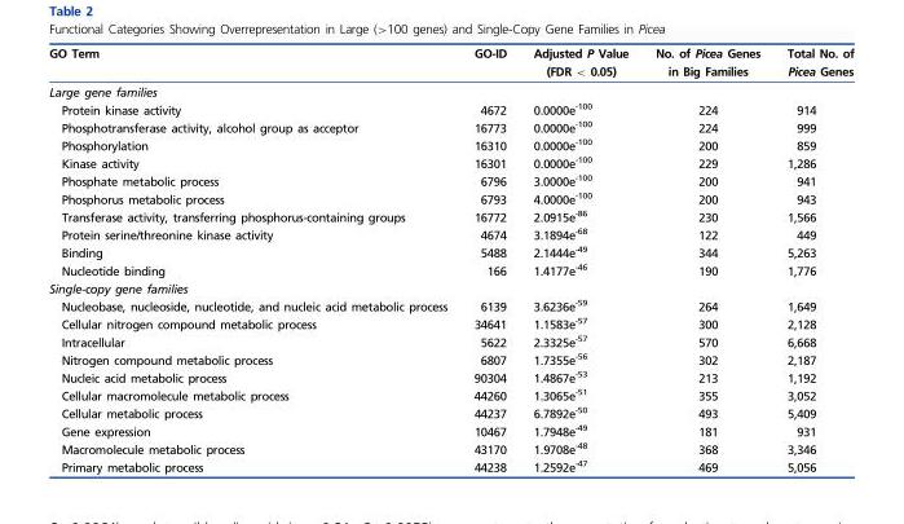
<table><thead><tr><td>GO Term</td><td>GO-ID</td><td>Adjusted P Value (FDR &lt; 0.05)</td><td>No. of Picea Genes in Big Families</td><td>Total No. of Picea Genes</td></tr></thead><tbody><tr><td colspan="5">Large gene families</td></tr><tr><td>Protein kinase activity</td><td>4672</td><td>0.0000e<sup>-100</sup></td><td>224</td><td>914</td></tr><tr><td>Phosphotransferase activity, alcohol group as acceptor</td><td>16773</td><td>0.0000e<sup>-100</sup></td><td>224</td><td>999</td></tr><tr><td>Phosphorylation</td><td>16310</td><td>0.0000e<sup>-100</sup></td><td>200</td><td>859</td></tr><tr><td>Kinase activity</td><td>16301</td><td>0.0000e<sup>-100</sup></td><td>229</td><td>1,286</td></tr><tr><td>Phosphate metabolic process</td><td>6796</td><td>3.0000e<sup>-100</sup></td><td>200</td><td>941</td></tr><tr><td>Phosphorus metabolic process</td><td>6793</td><td>4.0000e<sup>-100</sup></td><td>200</td><td>943</td></tr><tr><td>Transferase activity, transferring phosphorus-containing groups</td><td>16772</td><td>2.0915e<sup>-86</sup></td><td>230</td><td>1,566</td></tr><tr><td>Protein serine/threonine kinase activity</td><td>4674</td><td>3.1894e<sup>-68</sup></td><td>122</td><td>449</td></tr><tr><td>Binding</td><td>5488</td><td>2.1444e<sup>-49</sup></td><td>344</td><td>5,263</td></tr><tr><td>Nucleotide binding</td><td>166</td><td>1.4177e<sup>-46</sup></td><td>190</td><td>1,776</td></tr><tr><td colspan="5">Single-copy gene families</td></tr><tr><td>Nucleobase, nucleoside, nucleotide, and nucleic acid metabolic process</td><td>6139</td><td>3.6236e<sup>-59</sup></td><td>264</td><td>1,649</td></tr><tr><td>Cellular nitrogen compound metabolic process</td><td>34641</td><td>1.1583e<sup>-57</sup></td><td>300</td><td>2,128</td></tr><tr><td>Intracellular</td><td>5622</td><td>2.3325e<sup>-57</sup></td><td>570</td><td>6,668</td></tr><tr><td>Nitrogen compound metabolic process</td><td>6807</td><td>1.7355e<sup>-56</sup></td><td>302</td><td>2,187</td></tr><tr><td>Nucleic acid metabolic process</td><td>90304</td><td>1.4867e<sup>-53</sup></td><td>213</td><td>1,192</td></tr><tr><td>Cellular macromolecule metabolic process</td><td>44260</td><td>1.3065e<sup>-51</sup></td><td>355</td><td>3,052</td></tr><tr><td>Cellular metabolic process</td><td>44237</td><td>6.7892e<sup>-50</sup></td><td>493</td><td>5,409</td></tr><tr><td>Gene expression</td><td>10467</td><td>1.7948e<sup>-49</sup></td><td>181</td><td>931</td></tr><tr><td>Macromolecule metabolic process</td><td>43170</td><td>1.9708e<sup>-48</sup></td><td>368</td><td>3,346</td></tr><tr><td>Primary metabolic process</td><td>44238</td><td>1.2592e<sup>-47</sup></td><td>469</td><td>5,056</td></tr></tbody></table>